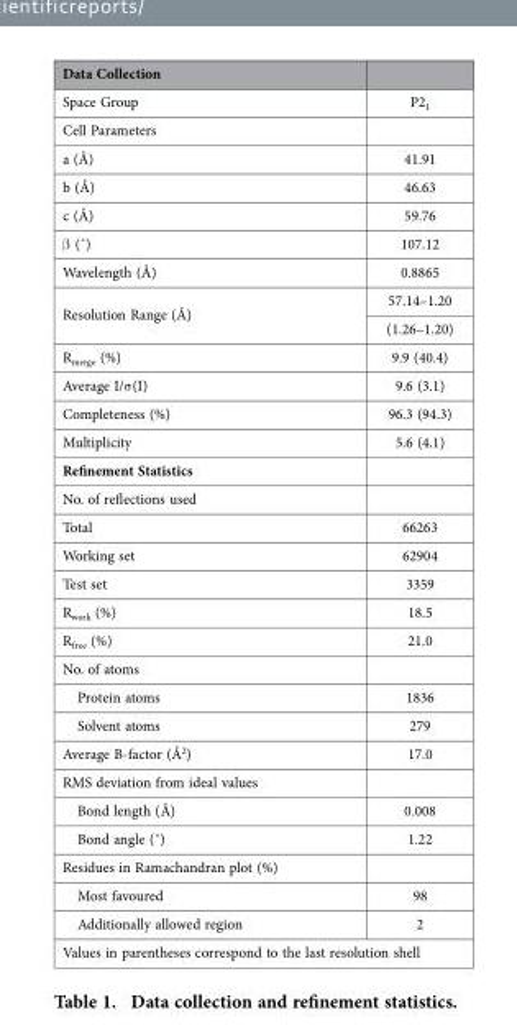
<table><thead><tr><td>Data Collection</td><td></td></tr></thead><tbody><tr><td>Space Group</td><td>P2<sub>1</sub></td></tr><tr><td colspan="2">Cell Parameters</td></tr><tr><td>a (Å)</td><td>41.91</td></tr><tr><td>b (Å)</td><td>46.63</td></tr><tr><td>c (Å)</td><td>59.76</td></tr><tr><td>β (˚)</td><td>107.12</td></tr><tr><td>Wavelength (Å)</td><td>0.8865</td></tr><tr><td rowspan="2">Resolution Range (Å)</td><td>57.14–1.20</td></tr><tr><td>(1.26–1.20)</td></tr><tr><td>R<sub>merge</sub> (%)</td><td>9.9 (40.4)</td></tr><tr><td>Average I/σ (I)</td><td>9.6 (3.1)</td></tr><tr><td>Completeness (%)</td><td>96.3 (94.3)</td></tr><tr><td>Multiplicity</td><td>5.6 (4.1)</td></tr><tr><td colspan="2">Refinement Statistics</td></tr><tr><td colspan="2">No. of reflections used</td></tr><tr><td>Total</td><td>66263</td></tr><tr><td>Working set</td><td>62904</td></tr><tr><td>Test set</td><td>3359</td></tr><tr><td>R<sub>work</sub> (%)</td><td>18.5</td></tr><tr><td>R<sub>free</sub> (%)</td><td>21.0</td></tr><tr><td colspan="2">No. of atoms</td></tr><tr><td>Protein atoms</td><td>1836</td></tr><tr><td>Solvent atoms</td><td>279</td></tr><tr><td>Average B-factor (Å<sup>2</sup>)</td><td>17.0</td></tr><tr><td colspan="2">RMS deviation from ideal values</td></tr><tr><td>Bond length (Å)</td><td>0.008</td></tr><tr><td>Bond angle (˚)</td><td>1.22</td></tr><tr><td colspan="2">Residues in Ramachandran plot (%)</td></tr><tr><td>Most favoured</td><td>98</td></tr><tr><td>Additionally allowed region</td><td>2</td></tr><tr><td colspan="2">Values in parentheses correspond to the last resolution shell</td></tr></tbody></table>